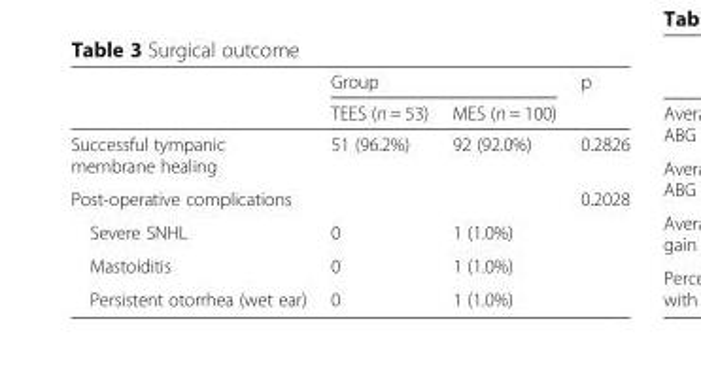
<table><thead><tr><td rowspan="2"></td><td colspan="2">Group</td><td rowspan="2">p</td></tr><tr><td>TEES (n = 53)</td><td>MES (n = 100)</td></tr></thead><tbody><tr><td>Successful tympanic membrane healing</td><td>51 (96.2%)</td><td>92 (92.0%)</td><td>0.2826</td></tr><tr><td>Post-operative complications</td><td></td><td></td><td>0.2028</td></tr><tr><td>Severe SNHL</td><td>0</td><td>1 (1.0%)</td><td></td></tr><tr><td>Mastoiditis</td><td>0</td><td>1 (1.0%)</td><td></td></tr><tr><td>Persistent otorrhea (wet ear)</td><td>0</td><td>1 (1.0%)</td><td></td></tr></tbody></table>